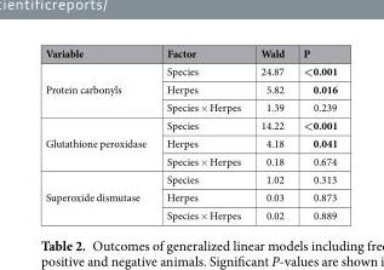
<table><thead><tr><td>Variable</td><td>Factor</td><td>Wald</td><td>P</td></tr></thead><tbody><tr><td rowspan="3">Protein carbonyls</td><td>Species</td><td>24.87</td><td>&lt;0.001</td></tr><tr><td>Herpes</td><td>5.82</td><td>0.016</td></tr><tr><td>Species × Herpes</td><td>1.39</td><td>0.239</td></tr><tr><td rowspan="3">Glutathione peroxidase</td><td>Species</td><td>14.22</td><td>&lt;0.001</td></tr><tr><td>Herpes</td><td>4.18</td><td>0.041</td></tr><tr><td>Species × Herpes</td><td>0.18</td><td>0.674</td></tr><tr><td rowspan="3">Superoxide dismutase</td><td>Species</td><td>1.02</td><td>0.313</td></tr><tr><td>Herpes</td><td>0.03</td><td>0.873</td></tr><tr><td>Species × Herpes</td><td>0.02</td><td>0.889</td></tr></tbody></table>